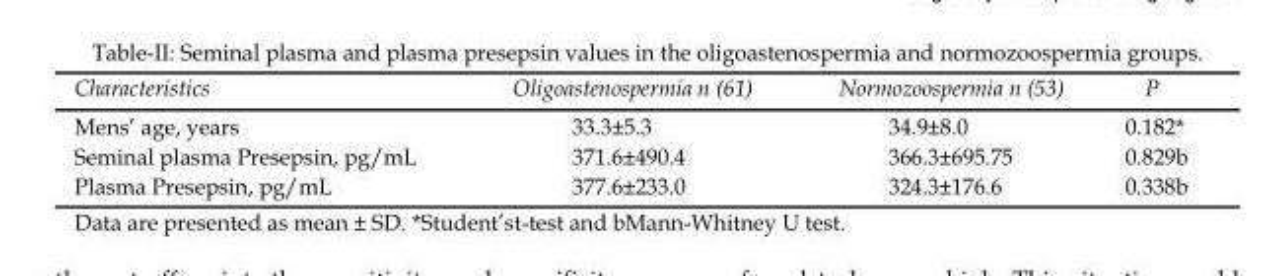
<table><thead><tr><td>Characteristics</td><td>Oligoastenospermia n (61)</td><td>Normozoospermia n (53)</td><td>P</td></tr></thead><tbody><tr><td>Mens’ age, years</td><td>33.3±5.3</td><td>34.9±8.0</td><td>0.182*</td></tr><tr><td>Seminal plasma Presepsin, pg/mL</td><td>371.6±490.4</td><td>366.3±695.75</td><td>0.829<sup>b</sup></td></tr><tr><td>Plasma Presepsin, pg/mL</td><td>377.6±233.0</td><td>324.3±176.6</td><td>0.338<sup>b</sup></td></tr></tbody></table>